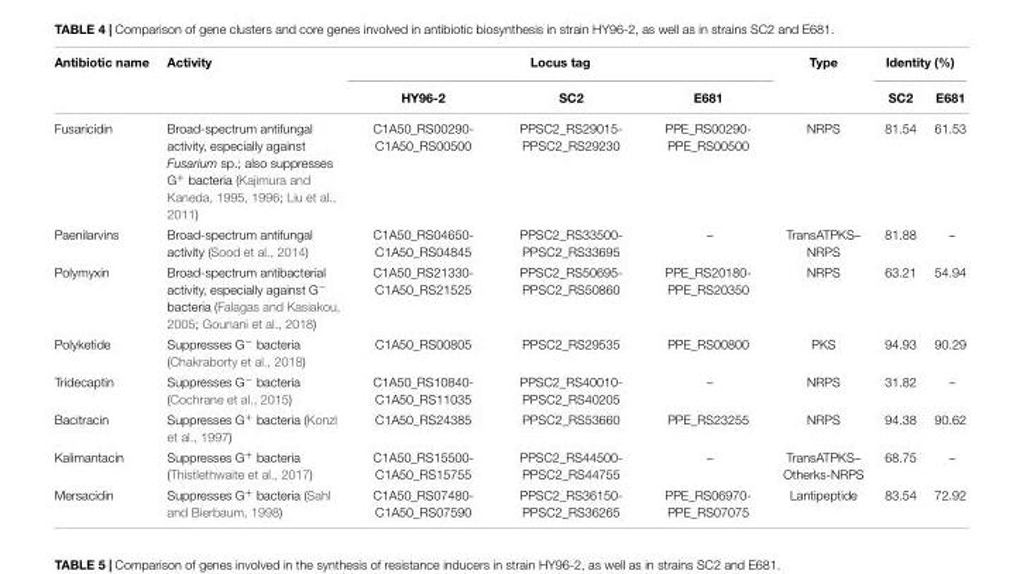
<table><thead><tr><td rowspan="2">Antibiotic name</td><td rowspan="2">Activity</td><td colspan="3">Locus tag</td><td rowspan="2">Type</td><td colspan="2">Identity (%)</td></tr><tr><td>HY96-2</td><td>SC2</td><td>E681</td><td>SC2</td><td>E681</td></tr></thead><tbody><tr><td>Fusaricidin</td><td>Broad-spectrum antifungal activity, especially against Fusarium sp.; also suppresses G<sup>+</sup> bacteria (Kajimura and Kaneda, 1995, 1996; Liu et al., 2011)</td><td>C1A50_RS00290- C1A50_RS00500</td><td>PPSC2_RS29015- PPSC2_RS29230</td><td>PPE_RS00290- PPE_RS00500</td><td>NRPS</td><td>81.54</td><td>61.53</td></tr><tr><td>Paenilarvins</td><td>Broad-spectrum antifungal activity (Sood et al., 2014)</td><td>C1A50_RS04650- C1A50_RS04845</td><td>PPSC2_RS33500- PPSC2_RS33695</td><td>–</td><td>TransATPKS– NRPS</td><td>81.88</td><td>–</td></tr><tr><td>Polymyxin</td><td>Broad-spectrum antibacterial activity, especially against G<sup>−</sup> bacteria (Falagas and Kasiakou, 2005; Gounani et al., 2018)</td><td>C1A50_RS21330- C1A50_RS21525</td><td>PPSC2_RS50695- PPSC2_RS50860</td><td>PPE_RS20180- PPE_RS20350</td><td>NRPS</td><td>63.21</td><td>54.94</td></tr><tr><td>Polyketide</td><td>Suppresses G<sup>−</sup> bacteria (Chakraborty et al., 2018)</td><td>C1A50_RS00805</td><td>PPSC2_RS29535</td><td>PPE_RS00800</td><td>PKS</td><td>94.93</td><td>90.29</td></tr><tr><td>Tridecaptin</td><td>Suppresses G<sup>−</sup> bacteria (Cochrane et al., 2015)</td><td>C1A50_RS10840- C1A50_RS11035</td><td>PPSC2_RS40010- PPSC2_RS40205</td><td>–</td><td>NRPS</td><td>31.82</td><td>–</td></tr><tr><td>Bacitracin</td><td>Suppresses G<sup>+</sup> bacteria (Konzl et al., 1997)</td><td>C1A50_RS24385</td><td>PPSC2_RS53660</td><td>PPE_RS23255</td><td>NRPS</td><td>94.38</td><td>90.62</td></tr><tr><td>Kalimantacin</td><td>Suppresses G<sup>+</sup> bacteria (Thistlethwaite et al., 2017)</td><td>C1A50_RS15500- C1A50_RS15755</td><td>PPSC2_RS44500- PPSC2_RS44755</td><td>–</td><td>TransATPKS– Otherks-NRPS</td><td>68.75</td><td>–</td></tr><tr><td>Mersacidin</td><td>Suppresses G<sup>+</sup> bacteria (Sahl and Bierbaum, 1998)</td><td>C1A50_RS07480- C1A50_RS07590</td><td>PPSC2_RS36150- PPSC2_RS36265</td><td>PPE_RS06970- PPE_RS07075</td><td>Lantipeptide</td><td>83.54</td><td>72.92</td></tr></tbody></table>